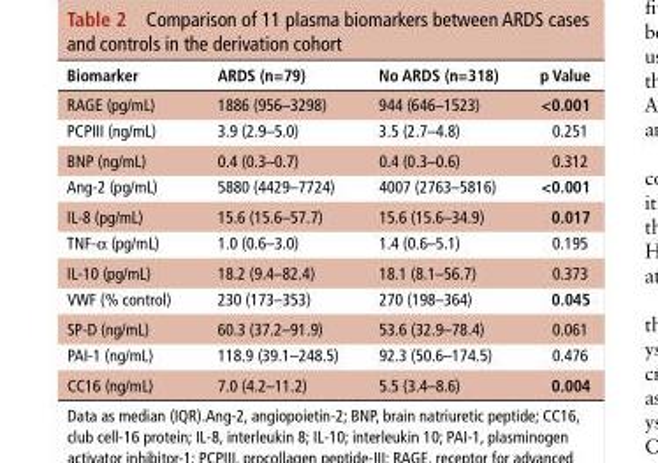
<table><thead><tr><td>biomarker</td><td>ArDs (n=79)</td><td>no ArDs (n=318)</td><td>p Value</td></tr></thead><tbody><tr><td>RAGE (pg/mL)</td><td>1886 (956–3298)</td><td>944 (646–1523)</td><td>&lt;0.001</td></tr><tr><td>PCPIII (ng/mL)</td><td>3.9 (2.9–5.0)</td><td>3.5 (2.7–4.8)</td><td>0.251</td></tr><tr><td>BNP (ng/mL)</td><td>0.4 (0.3–0.7)</td><td>0.4 (0.3–0.6)</td><td>0.312</td></tr><tr><td>Ang-2 (pg/mL)</td><td>5880 (4429–7724)</td><td>4007 (2763–5816)</td><td>&lt;0.001</td></tr><tr><td>IL-8 (pg/mL)</td><td>15.6 (15.6–57.7)</td><td>15.6 (15.6–34.9)</td><td>0.017</td></tr><tr><td>TNF-α (pg/mL)</td><td>1.0 (0.6–3.0)</td><td>1.4 (0.6–5.1)</td><td>0.195</td></tr><tr><td>IL-10 (pg/mL)</td><td>18.2 (9.4–82.4)</td><td>18.1 (8.1–56.7)</td><td>0.373</td></tr><tr><td>VWF (% control)</td><td>230 (173–353)</td><td>270 (198–364)</td><td>0.045</td></tr><tr><td>SP-D (ng/mL)</td><td>60.3 (37.2–91.9)</td><td>53.6 (32.9–78.4)</td><td>0.061</td></tr><tr><td>PAI-1 (ng/mL)</td><td>118.9 (39.1–248.5)</td><td>92.3 (50.6–174.5)</td><td>0.476</td></tr><tr><td>CC16 (ng/mL)</td><td>7.0 (4.2–11.2)</td><td>5.5 (3.4–8.6)</td><td>0.004</td></tr></tbody></table>